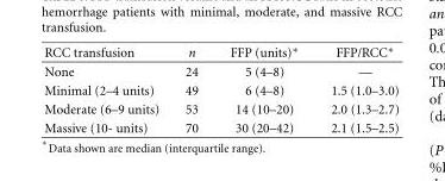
<table><thead><tr><td>RCC transfusion</td><td>n</td><td>FFP (units)∗</td><td>FFP/RCC∗</td></tr></thead><tbody><tr><td>None</td><td>24</td><td>5 (4–8)</td><td>—</td></tr><tr><td>Minimal (2–4 units)</td><td>49</td><td>6 (4–8)</td><td>1.5 (1.0–3.0)</td></tr><tr><td>Moderate (6–9 units)</td><td>53</td><td>14 (10–20)</td><td>2.0 (1.3–2.7)</td></tr><tr><td>Massive (10- units)</td><td>70</td><td>30 (20–42)</td><td>2.1 (1.5–2.5)</td></tr></tbody></table>